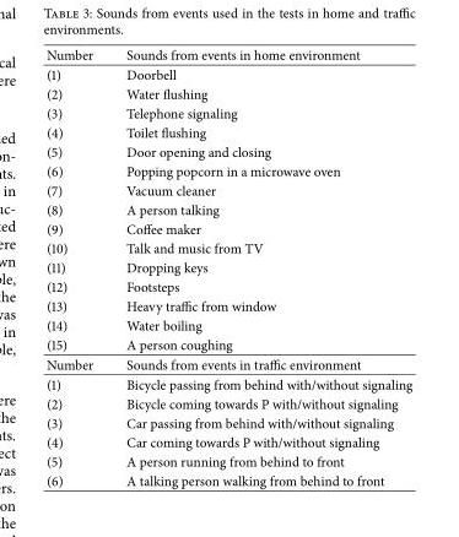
<table><thead><tr><td>Number</td><td>Sounds from events in home environment</td></tr></thead><tbody><tr><td>(1)</td><td>Doorbell</td></tr><tr><td>(2)</td><td>Water flushing</td></tr><tr><td>(3)</td><td>Telephone signaling</td></tr><tr><td>(4)</td><td>Toilet flushing</td></tr><tr><td>(5)</td><td>Door opening and closing</td></tr><tr><td>(6)</td><td>Popping popcorn in a microwave oven</td></tr><tr><td>(7)</td><td>Vacuum cleaner</td></tr><tr><td>(8)</td><td>A person talking</td></tr><tr><td>(9)</td><td>Coffee maker</td></tr><tr><td>(10)</td><td>Talk and music from TV</td></tr><tr><td>(11)</td><td>Dropping keys</td></tr><tr><td>(12)</td><td>Footsteps</td></tr><tr><td>(13)</td><td>Heavy traffic from window</td></tr><tr><td>(14)</td><td>Water boiling</td></tr><tr><td>(15)</td><td>A person coughing</td></tr><tr><td>Number</td><td>Sounds from events in traffic environment</td></tr><tr><td>(1)</td><td>Bicycle passing from behind with/without signaling</td></tr><tr><td>(2)</td><td>Bicycle coming towards P with/without signaling</td></tr><tr><td>(3)</td><td>Car passing from behind with/without signaling</td></tr><tr><td>(4)</td><td>Car coming towards P with/without signaling</td></tr><tr><td>(5)</td><td>A person running from behind to front</td></tr><tr><td>(6)</td><td>A talking person walking from behind to front</td></tr></tbody></table>